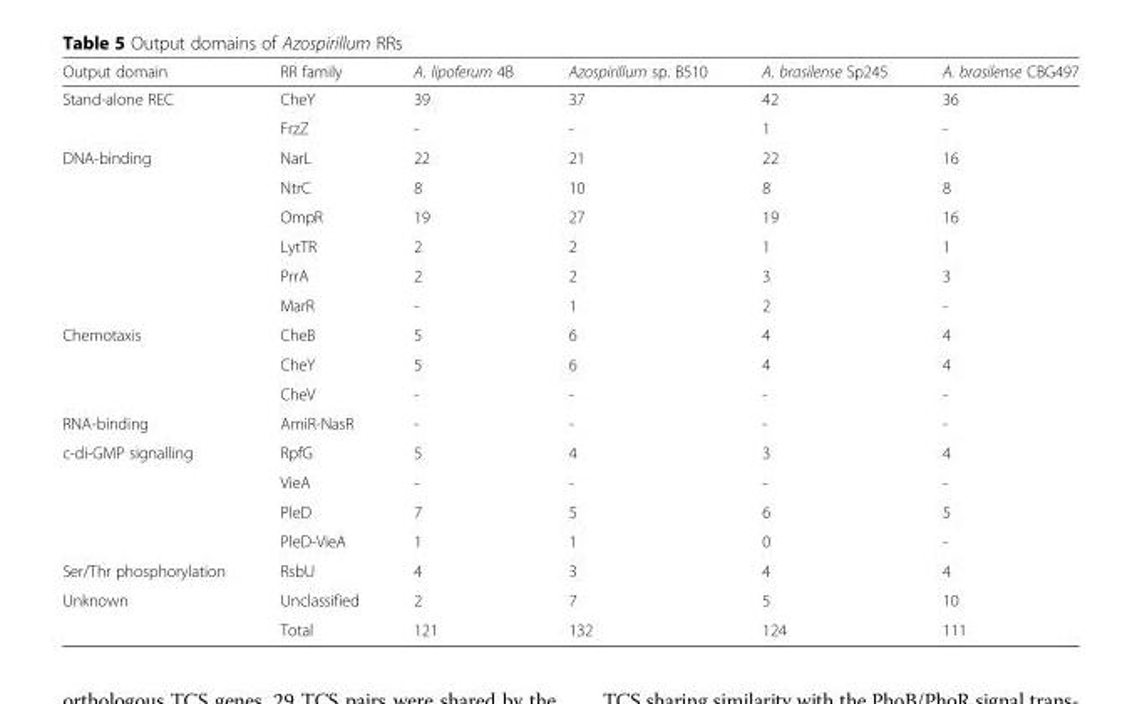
<table><thead><tr><td>Output domain</td><td>RR family</td><td>A. lipoferum 4B</td><td>Azospirillum sp. B510</td><td>A. brasilense Sp245</td><td>A. brasilense CBG497</td></tr></thead><tbody><tr><td rowspan="2">Stand-alone REC</td><td>CheY</td><td>39</td><td>37</td><td>42</td><td>36</td></tr><tr><td>FrzZ</td><td>-</td><td>-</td><td>1</td><td>-</td></tr><tr><td rowspan="6">DNA-binding</td><td>NarL</td><td>22</td><td>21</td><td>22</td><td>16</td></tr><tr><td>NtrC</td><td>8</td><td>10</td><td>8</td><td>8</td></tr><tr><td>OmpR</td><td>19</td><td>27</td><td>19</td><td>16</td></tr><tr><td>LytTR</td><td>2</td><td>2</td><td>1</td><td>1</td></tr><tr><td>PrrA</td><td>2</td><td>2</td><td>3</td><td>3</td></tr><tr><td>MarR</td><td>-</td><td>1</td><td>2</td><td>-</td></tr><tr><td rowspan="3">Chemotaxis</td><td>CheB</td><td>5</td><td>6</td><td>4</td><td>4</td></tr><tr><td>CheY</td><td>5</td><td>6</td><td>4</td><td>4</td></tr><tr><td>CheV</td><td>-</td><td>-</td><td>-</td><td>-</td></tr><tr><td>RNA-binding</td><td>AmiR-NasR</td><td>-</td><td>-</td><td>-</td><td>-</td></tr><tr><td rowspan="4">c-di-GMP signalling</td><td>RpfG</td><td>5</td><td>4</td><td>3</td><td>4</td></tr><tr><td>VieA</td><td>-</td><td>-</td><td>-</td><td>-</td></tr><tr><td>PleD</td><td>7</td><td>5</td><td>6</td><td>5</td></tr><tr><td>PleD-VieA</td><td>1</td><td>1</td><td>0</td><td>-</td></tr><tr><td>Ser/Thr phosphorylation</td><td>RsbU</td><td>4</td><td>3</td><td>4</td><td>4</td></tr><tr><td rowspan="2">Unknown</td><td>Unclassified</td><td>2</td><td>7</td><td>5</td><td>10</td></tr><tr><td>Total</td><td>121</td><td>132</td><td>124</td><td>111</td></tr></tbody></table>